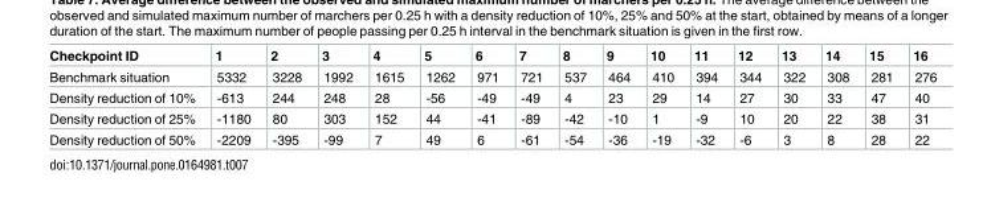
<table><thead><tr><td>Checkpoint ID</td><td>1</td><td>2</td><td>3</td><td>4</td><td>5</td><td>6</td><td>7</td><td>8</td><td>9</td><td>10</td><td>11</td><td>12</td><td>13</td><td>14</td><td>15</td><td>16</td></tr></thead><tbody><tr><td>Benchmark situation</td><td>5332</td><td>3228</td><td>1992</td><td>1615</td><td>1262</td><td>971</td><td>721</td><td>537</td><td>464</td><td>410</td><td>394</td><td>344</td><td>322</td><td>308</td><td>281</td><td>276</td></tr><tr><td>Density reduction of 10%</td><td>-613</td><td>244</td><td>248</td><td>28</td><td>-56</td><td>-49</td><td>-49</td><td>4</td><td>23</td><td>29</td><td>14</td><td>27</td><td>30</td><td>33</td><td>47</td><td>40</td></tr><tr><td>Density reduction of 25%</td><td>-1180</td><td>80</td><td>303</td><td>152</td><td>44</td><td>-41</td><td>-89</td><td>-42</td><td>-10</td><td>1</td><td>-9</td><td>10</td><td>20</td><td>22</td><td>38</td><td>31</td></tr><tr><td>Density reduction of 50%</td><td>-2209</td><td>-395</td><td>-99</td><td>7</td><td>49</td><td>6</td><td>-61</td><td>-54</td><td>-36</td><td>-19</td><td>-32</td><td>-6</td><td>3</td><td>8</td><td>28</td><td>22</td></tr></tbody></table>